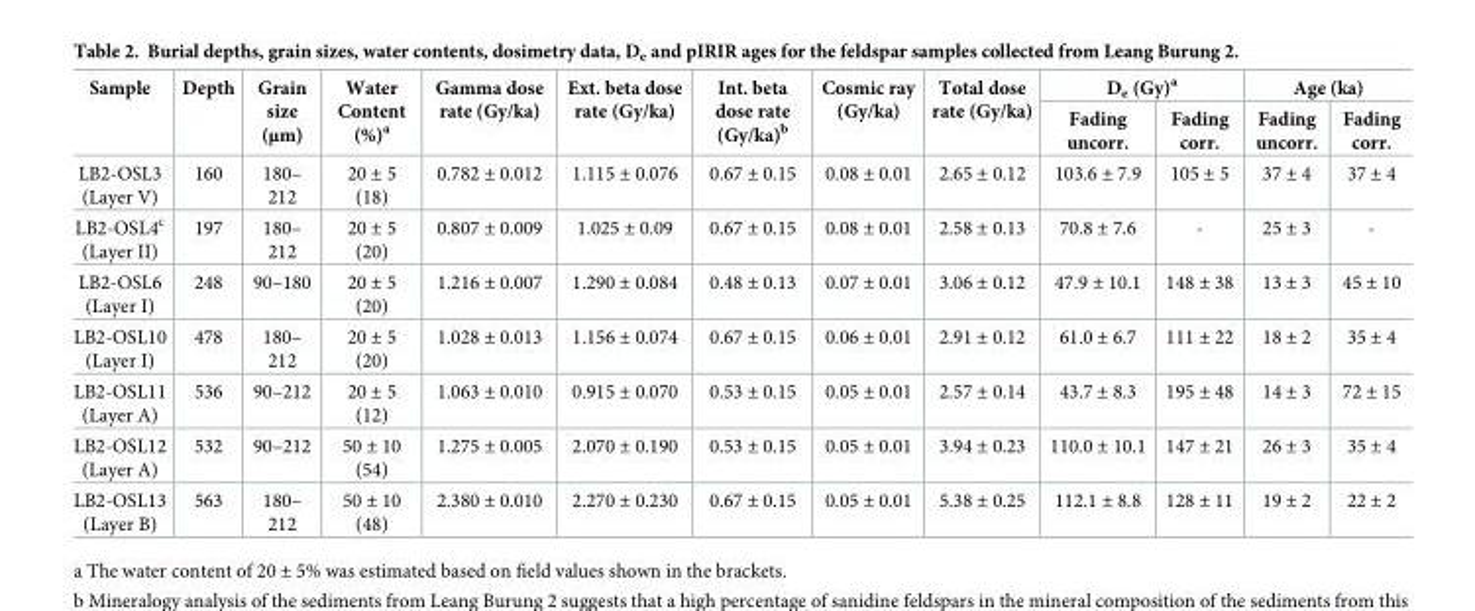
<table><thead><tr><td rowspan="2">Sample</td><td rowspan="2">Depth</td><td rowspan="2">Grain size (μm)</td><td rowspan="2">Water Content (%)<sup>a</sup></td><td rowspan="2">Gamma dose rate (Gy/ka)</td><td rowspan="2">Ext. beta dose rate (Gy/ka)</td><td rowspan="2">Int. beta dose rate (Gy/ka)<sup>b</sup></td><td rowspan="2">Cosmic ray (Gy/ka)</td><td rowspan="2">Total dose rate (Gy/ka)</td><td colspan="2">D<sub>e</sub> (Gy)<sup>a</sup></td><td colspan="2">Age (ka)</td></tr><tr><td>Fading uncorr.</td><td>Fading corr.</td><td>Fading uncorr.</td><td>Fading corr.</td></tr></thead><tbody><tr><td>LB2-OSL3 (Layer V)</td><td>160</td><td>180– 212</td><td>20 ± 5 (18)</td><td>0.782 ± 0.012</td><td>1.115 ± 0.076</td><td>0.67 ± 0.15</td><td>0.08 ± 0.01</td><td>2.65 ± 0.12</td><td>103.6 ± 7.9</td><td>105 ± 5</td><td>37 ± 4</td><td>37 ± 4</td></tr><tr><td>LB2-OSL4<sup>c</sup> (Layer II)</td><td>197</td><td>180– 212</td><td>20 ± 5 (20)</td><td>0.807 ± 0.009</td><td>1.025 ± 0.09</td><td>0.67 ± 0.15</td><td>0.08 ± 0.01</td><td>2.58 ± 0.13</td><td>70.8 ± 7.6</td><td>-</td><td>25 ± 3</td><td>-</td></tr><tr><td>LB2-OSL6 (Layer I)</td><td>248</td><td>90–180</td><td>20 ± 5 (20)</td><td>1.216 ± 0.007</td><td>1.290 ± 0.084</td><td>0.48 ± 0.13</td><td>0.07 ± 0.01</td><td>3.06 ± 0.12</td><td>47.9 ± 10.1</td><td>148 ± 38</td><td>13 ± 3</td><td>45 ± 10</td></tr><tr><td>LB2-OSL10 (Layer I)</td><td>478</td><td>180– 212</td><td>20 ± 5 (20)</td><td>1.028 ± 0.013</td><td>1.156 ± 0.074</td><td>0.67 ± 0.15</td><td>0.06 ± 0.01</td><td>2.91 ± 0.12</td><td>61.0 ± 6.7</td><td>111 ± 22</td><td>18 ± 2</td><td>35 ± 4</td></tr><tr><td>LB2-OSL11 (Layer A)</td><td>536</td><td>90–212</td><td>20 ± 5 (12)</td><td>1.063 ± 0.010</td><td>0.915 ± 0.070</td><td>0.53 ± 0.15</td><td>0.05 ± 0.01</td><td>2.57 ± 0.14</td><td>43.7 ± 8.3</td><td>195 ± 48</td><td>14 ± 3</td><td>72 ± 15</td></tr><tr><td>LB2-OSL12 (Layer A)</td><td>532</td><td>90–212</td><td>50 ± 10 (54)</td><td>1.275 ± 0.005</td><td>2.070 ± 0.190</td><td>0.53 ± 0.15</td><td>0.05 ± 0.01</td><td>3.94 ± 0.23</td><td>110.0 ± 10.1</td><td>147 ± 21</td><td>26 ± 3</td><td>35 ± 4</td></tr><tr><td>LB2-OSL13 (Layer B)</td><td>563</td><td>180– 212</td><td>50 ± 10 (48)</td><td>2.380 ± 0.010</td><td>2.270 ± 0.230</td><td>0.67 ± 0.15</td><td>0.05 ± 0.01</td><td>5.38 ± 0.25</td><td>112.1 ± 8.8</td><td>128 ± 11</td><td>19 ± 2</td><td>22 ± 2</td></tr></tbody></table>